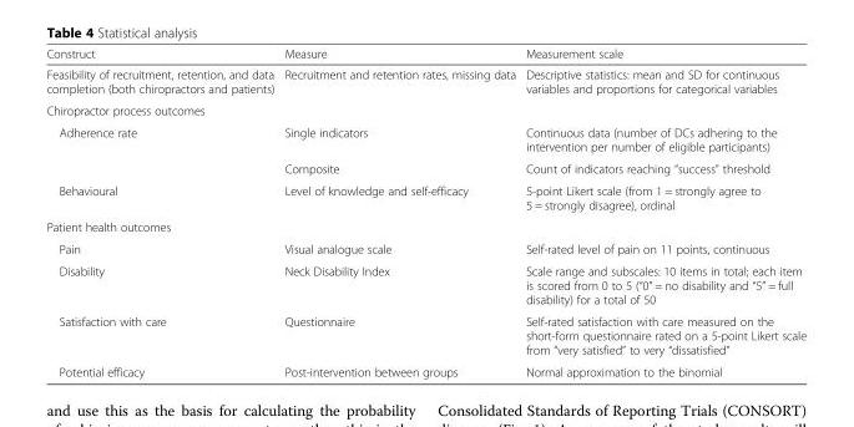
<table><thead><tr><td>Construct</td><td>Measure</td><td>Measurement scale</td></tr></thead><tbody><tr><td>Feasibility of recruitment, retention, and data completion (both chiropractors and patients)</td><td>Recruitment and retention rates, missing data</td><td>Descriptive statistics: mean and SD for continuous variables and proportions for categorical variables</td></tr><tr><td colspan="3">Chiropractor process outcomes</td></tr><tr><td rowspan="2">Adherence rate</td><td>Single indicators</td><td>Continuous data (number of DCs adhering to the intervention per number of eligible participants)</td></tr><tr><td>Composite</td><td>Count of indicators reaching “success” threshold</td></tr><tr><td>Behavioural</td><td>Level of knowledge and self-efficacy</td><td>5-point Likert scale (from 1 = strongly agree to 5 = strongly disagree), ordinal</td></tr><tr><td colspan="3">Patient health outcomes</td></tr><tr><td>Pain</td><td>Visual analogue scale</td><td>Self-rated level of pain on 11 points, continuous</td></tr><tr><td>Disability</td><td>Neck Disability Index</td><td>Scale range and subscales: 10 items in total; each item is scored from 0 to 5 (“0” = no disability and “5” = full disability) for a total of 50</td></tr><tr><td>Satisfaction with care</td><td>Questionnaire</td><td>Self-rated satisfaction with care measured on the short-form questionnaire rated on a 5-point Likert scale from “very satisfied” to very “dissatisfied”</td></tr><tr><td>Potential efficacy</td><td>Post-intervention between groups</td><td>Normal approximation to the binomial</td></tr></tbody></table>